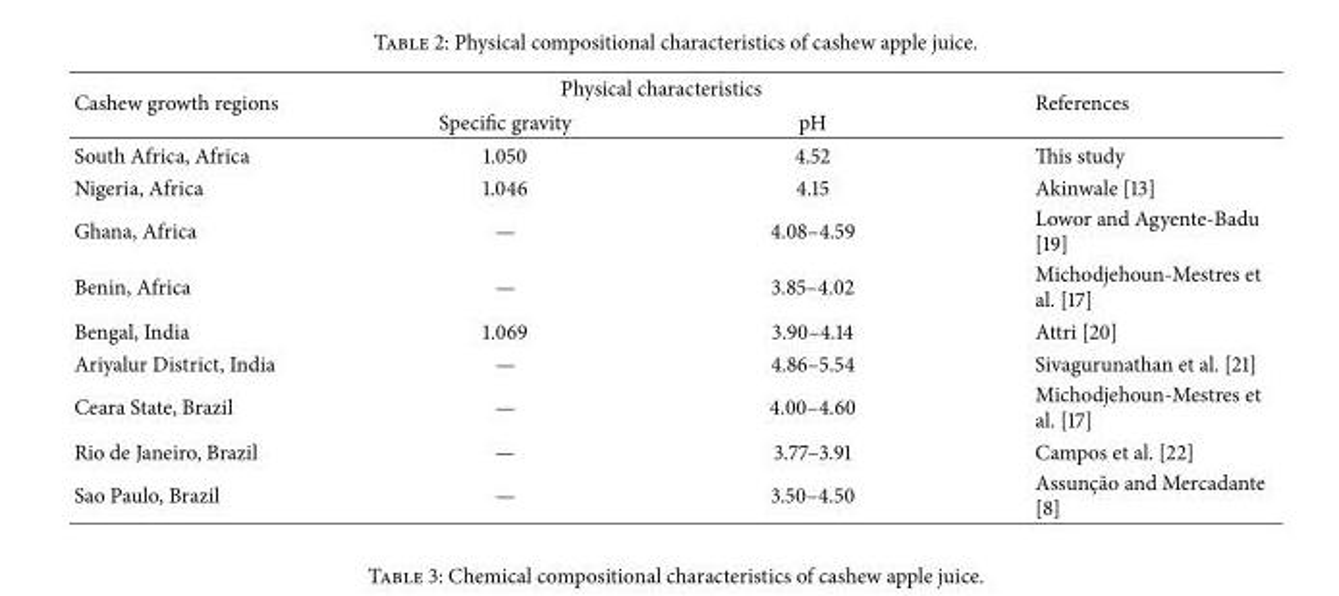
<table><thead><tr><td rowspan="2">Cashew growth regions</td><td colspan="2">Physical characteristics</td><td rowspan="2">References</td></tr><tr><td>Specific gravity</td><td>pH</td></tr></thead><tbody><tr><td>South Africa, Africa</td><td>1.050</td><td>4.52</td><td>This study</td></tr><tr><td>Nigeria, Africa</td><td>1.046</td><td>4.15</td><td>Akinwale [13]</td></tr><tr><td>Ghana, Africa</td><td>—</td><td>4.08–4.59</td><td>Lowor and Agyente-Badu [19]</td></tr><tr><td>Benin, Africa</td><td>—</td><td>3.85–4.02</td><td>Michodjehoun-Mestres et al. [17]</td></tr><tr><td>Bengal, India</td><td>1.069</td><td>3.90–4.14</td><td>Attri [20]</td></tr><tr><td>Ariyalur District, India</td><td>—</td><td>4.86–5.54</td><td>Sivagurunathan et al. [21]</td></tr><tr><td>Ceara State, Brazil</td><td>—</td><td>4.00–4.60</td><td>Michodjehoun-Mestres et al. [17]</td></tr><tr><td>Rio de Janeiro, Brazil</td><td>—</td><td>3.77–3.91</td><td>Campos et al. [22]</td></tr><tr><td>Sao Paulo, Brazil</td><td>—</td><td>3.50–4.50</td><td>Assunc¸˜ao and Mercadante [8]</td></tr></tbody></table>